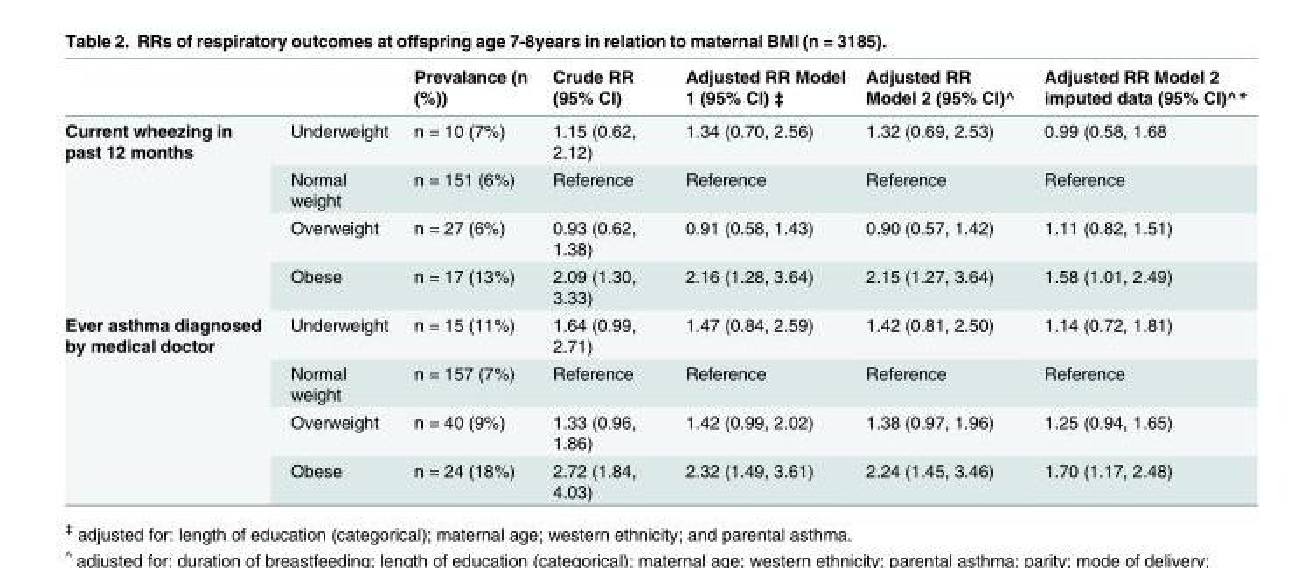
<table><thead><tr><td></td><td></td><td>Prevalance (n (%))</td><td>Crude RR (95% CI)</td><td>Adjusted RR Model 1 (95% CI) ‡</td><td>Adjusted RR Model 2 (95% CI)^</td><td>Adjusted RR Model 2 imputed data (95% CI)^*</td></tr></thead><tbody><tr><td rowspan="4">Current wheezing in past 12 months</td><td>Underweight</td><td>n = 10 (7%)</td><td>1.15 (0.62, 2.12)</td><td>1.34 (0.70, 2.56)</td><td>1.32 (0.69, 2.53)</td><td>0.99 (0.58, 1.68</td></tr><tr><td>Normal weight</td><td>n = 151 (6%)</td><td>Reference</td><td>Reference</td><td>Reference</td><td>Reference</td></tr><tr><td>Overweight</td><td>n = 27 (6%)</td><td>0.93 (0.62, 1.38)</td><td>0.91 (0.58, 1.43)</td><td>0.90 (0.57, 1.42)</td><td>1.11 (0.82, 1.51)</td></tr><tr><td>Obese</td><td>n = 17 (13%)</td><td>2.09 (1.30, 3.33)</td><td>2.16 (1.28, 3.64)</td><td>2.15 (1.27, 3.64)</td><td>1.58 (1.01, 2.49)</td></tr><tr><td rowspan="4">Ever asthma diagnosed by medical doctor</td><td>Underweight</td><td>n = 15 (11%)</td><td>1.64 (0.99, 2.71)</td><td>1.47 (0.84, 2.59)</td><td>1.42 (0.81, 2.50)</td><td>1.14 (0.72, 1.81)</td></tr><tr><td>Normal weight</td><td>n = 157 (7%)</td><td>Reference</td><td>Reference</td><td>Reference</td><td>Reference</td></tr><tr><td>Overweight</td><td>n = 40 (9%)</td><td>1.33 (0.96, 1.86)</td><td>1.42 (0.99, 2.02)</td><td>1.38 (0.97, 1.96)</td><td>1.25 (0.94, 1.65)</td></tr><tr><td>Obese</td><td>n = 24 (18%)</td><td>2.72 (1.84, 4.03)</td><td>2.32 (1.49, 3.61)</td><td>2.24 (1.45, 3.46)</td><td>1.70 (1.17, 2.48)</td></tr></tbody></table>